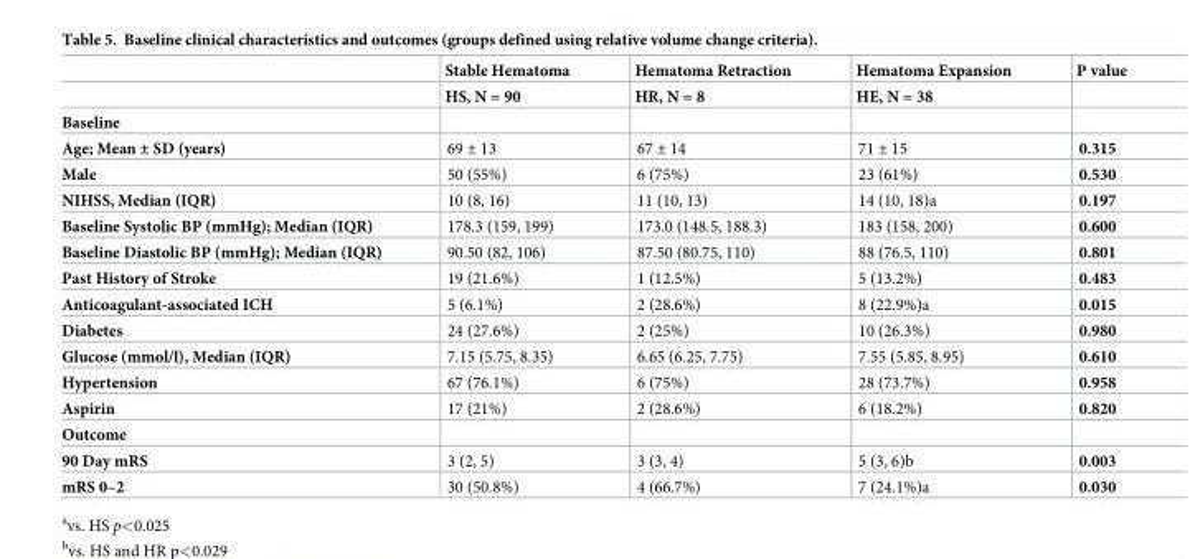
<table><thead><tr><td rowspan="2"></td><td rowspan="2">Stable Hematoma HS, N = 90</td><td rowspan="2">Hematoma Retraction HR, N = 8</td><td rowspan="2">Hematoma Expansion HE, N = 38</td><td rowspan="2">P value</td></tr><tr></tr></thead><tbody><tr><td colspan="5">Baseline</td></tr><tr><td>Age; Mean ± SD (years)</td><td>69 ± 13</td><td>67 ± 14</td><td>71 ± 15</td><td>0.315</td></tr><tr><td>Male</td><td>50 (55%)</td><td>6 (75%)</td><td>23 (61%)</td><td>0.530</td></tr><tr><td>NIHSS, Median (IQR)</td><td>10 (8, 16)</td><td>11 (10, 13)</td><td>14 (10, 18)<sup>a</sup></td><td>0.197</td></tr><tr><td>Baseline Systolic BP (mmHg); Median (IQR)</td><td>178.3 (159, 199)</td><td>173.0 (148.5, 188.3)</td><td>183 (158, 200)</td><td>0.600</td></tr><tr><td>Baseline Diastolic BP (mmHg); Median (IQR)</td><td>90.50 (82, 106)</td><td>87.50 (80.75, 110)</td><td>88 (76.5, 110)</td><td>0.801</td></tr><tr><td>Past History of Stroke</td><td>19 (21.6%)</td><td>1 (12.5%)</td><td>5 (13.2%)</td><td>0.483</td></tr><tr><td>Anticoagulant-associated ICH</td><td>5 (6.1%)</td><td>2 (28.6%)</td><td>8 (22.9%)<sup>a</sup></td><td>0.015</td></tr><tr><td>Diabetes</td><td>24 (27.6%)</td><td>2 (25%)</td><td>10 (26.3%)</td><td>0.980</td></tr><tr><td>Glucose (mmol/l), Median (IQR)</td><td>7.15 (5.75, 8.35)</td><td>6.65 (6.25, 7.75)</td><td>7.55 (5.85, 8.95)</td><td>0.610</td></tr><tr><td>Hypertension</td><td>67 (76.1%)</td><td>6 (75%)</td><td>28 (73.7%)</td><td>0.958</td></tr><tr><td>Aspirin</td><td>17 (21%)</td><td>2 (28.6%)</td><td>6 (18.2%)</td><td>0.820</td></tr><tr><td colspan="5">Outcome</td></tr><tr><td>90 Day mRS</td><td>3 (2, 5)</td><td>3 (3, 4)</td><td>5 (3, 6)<sup>b</sup></td><td>0.003</td></tr><tr><td>mRS 0–2</td><td>30 (50.8%)</td><td>4 (66.7%)</td><td>7 (24.1%)<sup>a</sup></td><td>0.030</td></tr></tbody></table>